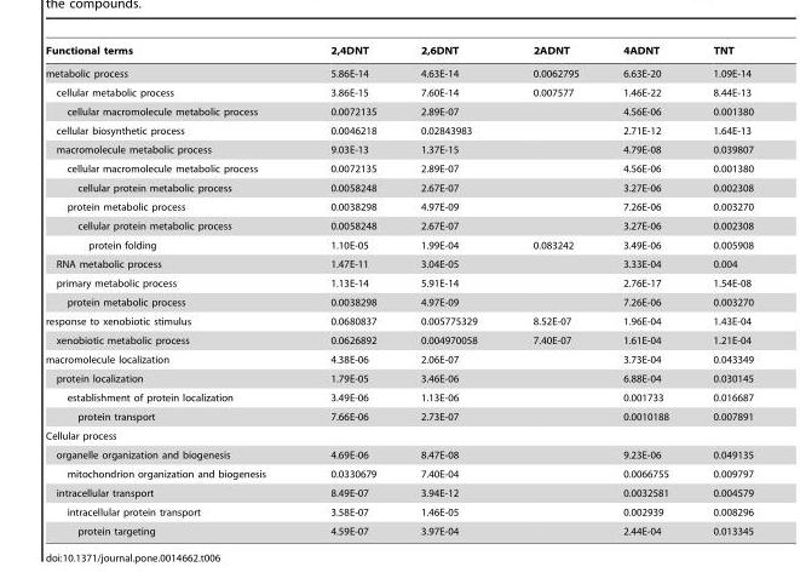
<table><thead><tr><td>Functional terms</td><td>2,4DNT</td><td>2,6DNT</td><td>2ADNT</td><td>4ADNT</td><td>TNT</td></tr></thead><tbody><tr><td>metabolic process</td><td>5.86E-14</td><td>4.63E-14</td><td>0.0062795</td><td>6.63E-20</td><td>1.09E-14</td></tr><tr><td>cellular metabolic process</td><td>3.86E-15</td><td>7.60E-14</td><td>0.007577</td><td>1.46E-22</td><td>8.44E-13</td></tr><tr><td>cellular macromolecule metabolic process</td><td>0.0072135</td><td>2.89E-07</td><td></td><td>4.56E-06</td><td>0.001380</td></tr><tr><td>cellular biosynthetic process</td><td>0.0046218</td><td>0.02843983</td><td></td><td>2.71E-12</td><td>1.64E-13</td></tr><tr><td>macromolecule metabolic process</td><td>9.03E-13</td><td>1.37E-15</td><td></td><td>4.79E-08</td><td>0.039807</td></tr><tr><td>cellular macromolecule metabolic process</td><td>0.0072135</td><td>2.89E-07</td><td></td><td>4.56E-06</td><td>0.001380</td></tr><tr><td>cellular protein metabolic process</td><td>0.0058248</td><td>2.67E-07</td><td></td><td>3.27E-06</td><td>0.002308</td></tr><tr><td>protein metabolic process</td><td>0.0038298</td><td>4.97E-09</td><td></td><td>7.26E-06</td><td>0.003270</td></tr><tr><td>cellular protein metabolic process</td><td>0.0058248</td><td>2.67E-07</td><td></td><td>3.27E-06</td><td>0.002308</td></tr><tr><td>protein folding</td><td>1.10E-05</td><td>1.99E-04</td><td>0.083242</td><td>3.49E-06</td><td>0.005908</td></tr><tr><td>RNA metabolic process</td><td>1.47E-11</td><td>3.04E-05</td><td></td><td>3.33E-04</td><td>0.004</td></tr><tr><td>primary metabolic process</td><td>1.13E-14</td><td>5.91E-14</td><td></td><td>2.76E-17</td><td>1.54E-08</td></tr><tr><td>protein metabolic process</td><td>0.0038298</td><td>4.97E-09</td><td></td><td>7.26E-06</td><td>0.003270</td></tr><tr><td>response to xenobiotic stimulus</td><td>0.0680837</td><td>0.005775329</td><td>8.52E-07</td><td>1.96E-04</td><td>1.43E-04</td></tr><tr><td>xenobiotic metabolic process</td><td>0.0626892</td><td>0.004970058</td><td>7.40E-07</td><td>1.61E-04</td><td>1.21E-04</td></tr><tr><td>macromolecule localization</td><td>4.38E-06</td><td>2.06E-07</td><td></td><td>3.73E-04</td><td>0.043349</td></tr><tr><td>protein localization</td><td>1.79E-05</td><td>3.46E-06</td><td></td><td>6.88E-04</td><td>0.030145</td></tr><tr><td>establishment of protein localization</td><td>3.49E-06</td><td>1.13E-06</td><td></td><td>0.001733</td><td>0.016687</td></tr><tr><td>protein transport</td><td>7.66E-06</td><td>2.73E-07</td><td></td><td>0.0010188</td><td>0.007891</td></tr><tr><td colspan="6">Cellular process</td></tr><tr><td>organelle organization and biogenesis</td><td>4.69E-06</td><td>8.47E-08</td><td></td><td>9.23E-06</td><td>0.049135</td></tr><tr><td>mitochondrion organization and biogenesis</td><td>0.0330679</td><td>7.40E-04</td><td></td><td>0.0066755</td><td>0.009797</td></tr><tr><td>intracellular transport</td><td>8.49E-07</td><td>3.94E-12</td><td></td><td>0.0032581</td><td>0.004579</td></tr><tr><td>intracellular protein transport</td><td>3.58E-07</td><td>1.46E-05</td><td></td><td>0.002939</td><td>0.008296</td></tr><tr><td>protein targeting</td><td>4.59E-07</td><td>3.97E-04</td><td></td><td>2.44E-04</td><td>0.013345</td></tr></tbody></table>